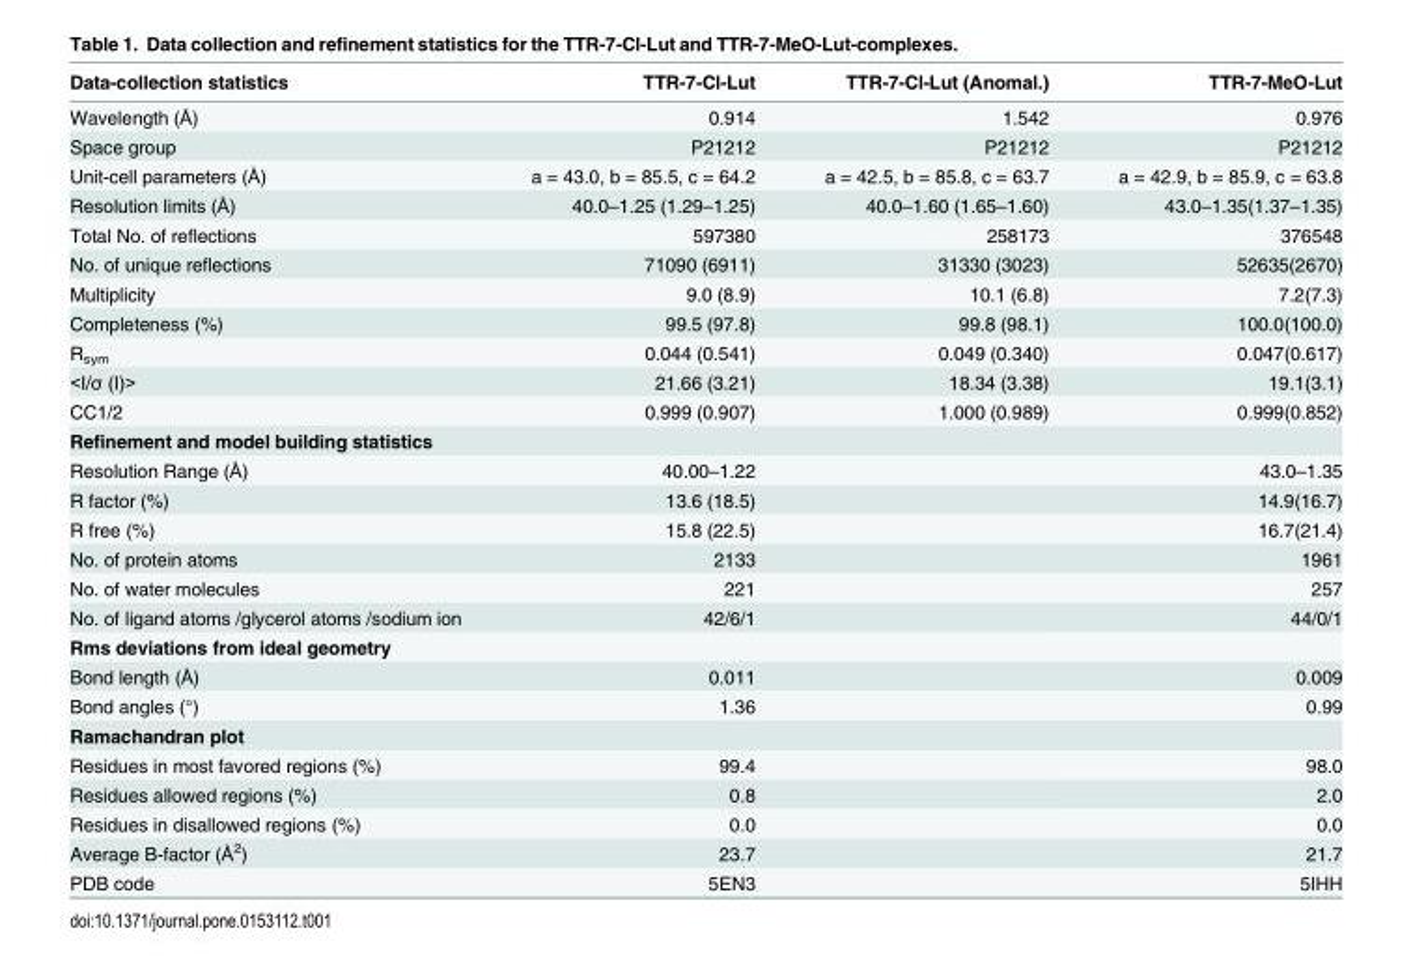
<table><thead><tr><td>Data-collection statistics</td><td>TTR-7-Cl-Lut</td><td>TTR-7-Cl-Lut (Anomal.)</td><td>TTR-7-MeO-Lut</td></tr></thead><tbody><tr><td>Wavelength (Å)</td><td>0.914</td><td>1.542</td><td>0.976</td></tr><tr><td>Space group</td><td>P21212</td><td>P21212</td><td>P21212</td></tr><tr><td>Unit-cell parameters (Å)</td><td>a = 43.0, b = 85.5, c = 64.2</td><td>a = 42.5, b = 85.8, c = 63.7</td><td>a = 42.9, b = 85.9, c = 63.8</td></tr><tr><td>Resolution limits (Å)</td><td>40.0–1.25 (1.29–1.25)</td><td>40.0–1.60 (1.65–1.60)</td><td>43.0–1.35(1.37–1.35)</td></tr><tr><td>Total No. of reflections</td><td>597380</td><td>258173</td><td>376548</td></tr><tr><td>No. of unique reflections</td><td>71090 (6911)</td><td>31330 (3023)</td><td>52635(2670)</td></tr><tr><td>Multiplicity</td><td>9.0 (8.9)</td><td>10.1 (6.8)</td><td>7.2(7.3)</td></tr><tr><td>Completeness (%)</td><td>99.5 (97.8)</td><td>99.8 (98.1)</td><td>100.0(100.0)</td></tr><tr><td>R<sub>sym</sub></td><td>0.044 (0.541)</td><td>0.049 (0.340)</td><td>0.047(0.617)</td></tr><tr><td>&lt;I/σ (I)&gt;</td><td>21.66 (3.21)</td><td>18.34 (3.38)</td><td>19.1(3.1)</td></tr><tr><td>CC1/2</td><td>0.999 (0.907)</td><td>1.000 (0.989)</td><td>0.999(0.852)</td></tr><tr><td colspan="4">Refinement and model building statistics</td></tr><tr><td>Resolution Range (Å)</td><td>40.00–1.22</td><td></td><td>43.0–1.35</td></tr><tr><td>R factor (%)</td><td>13.6 (18.5)</td><td></td><td>14.9(16.7)</td></tr><tr><td>R free (%)</td><td>15.8 (22.5)</td><td></td><td>16.7(21.4)</td></tr><tr><td>No. of protein atoms</td><td>2133</td><td></td><td>1961</td></tr><tr><td>No. of water molecules</td><td>221</td><td></td><td>257</td></tr><tr><td>No. of ligand atoms /glycerol atoms /sodium ion</td><td>42/6/1</td><td></td><td>44/0/1</td></tr><tr><td colspan="4">Rms deviations from ideal geometry</td></tr><tr><td>Bond length (Å)</td><td>0.011</td><td></td><td>0.009</td></tr><tr><td>Bond angles (°)</td><td>1.36</td><td></td><td>0.99</td></tr><tr><td colspan="4">Ramachandran plot</td></tr><tr><td>Residues in most favored regions (%)</td><td>99.4</td><td></td><td>98.0</td></tr><tr><td>Residues allowed regions (%)</td><td>0.8</td><td></td><td>2.0</td></tr><tr><td>Residues in disallowed regions (%)</td><td>0.0</td><td></td><td>0.0</td></tr><tr><td>Average B-factor (Å<sup>2</sup>)</td><td>23.7</td><td></td><td>21.7</td></tr><tr><td>PDB code</td><td>5EN3</td><td></td><td>5IHH</td></tr></tbody></table>